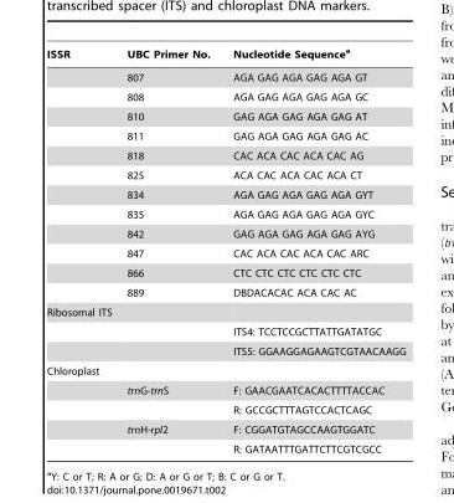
<table><thead><tr><td>ISSR</td><td>UBC Primer No.</td><td>Nucleotide Sequence<sup>a</sup></td></tr></thead><tbody><tr><td></td><td>807</td><td>AGA GAG AGA GAG AGA GT</td></tr><tr><td></td><td>808</td><td>AGA GAG AGA GAG AGA GC</td></tr><tr><td></td><td>810</td><td>GAG AGA GAG AGA GAG AT</td></tr><tr><td></td><td>811</td><td>GAG AGA GAG AGA GAG AC</td></tr><tr><td></td><td>818</td><td>CAC ACA CAC ACA CAC AG</td></tr><tr><td></td><td>825</td><td>ACA CAC ACA CAC ACA CT</td></tr><tr><td></td><td>834</td><td>AGA GAG AGA GAG AGA GYT</td></tr><tr><td></td><td>835</td><td>AGA GAG AGA GAG AGA GYC</td></tr><tr><td></td><td>842</td><td>GAG AGA GAG AGA GAG AYG</td></tr><tr><td></td><td>847</td><td>CAC ACA CAC ACA CAC ARC</td></tr><tr><td></td><td>866</td><td>CTC CTC CTC CTC CTC CTC</td></tr><tr><td></td><td>889</td><td>DBDACACAC ACA CAC AC</td></tr><tr><td colspan="3">Ribosomal ITS</td></tr><tr><td></td><td></td><td>ITS4: TCCTCCGCTTATTGATATGC</td></tr><tr><td></td><td></td><td>ITS5: GGAAGGAGAAGTCGTAACAAGG</td></tr><tr><td colspan="3">Chloroplast</td></tr><tr><td></td><td>trnG-trnS</td><td>F: GAACGAATCACACTTTTACCAC</td></tr><tr><td></td><td></td><td>R: GCCGCTTTAGTCCACTCAGC</td></tr><tr><td></td><td>trnH-rpl2</td><td>F: CGGATGTAGCCAAGTGGATC</td></tr><tr><td></td><td></td><td>R: GATAATTTGATTCTTCGTCGCC</td></tr></tbody></table>